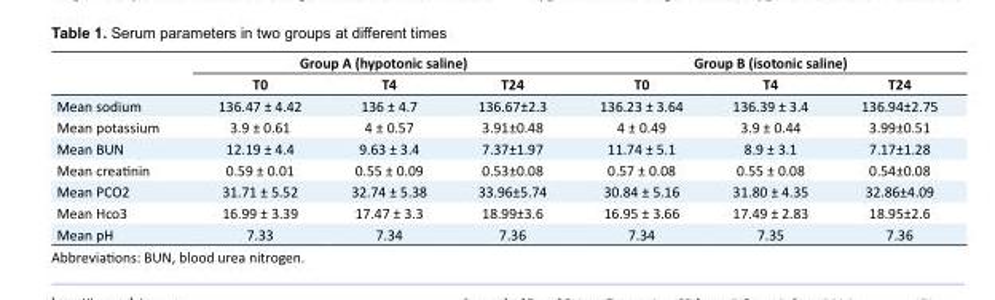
<table><thead><tr><td rowspan="2"></td><td colspan="3">Group A (hypotonic saline)</td><td colspan="3">Group B (isotonic saline)</td></tr><tr><td>T0</td><td>T4</td><td>T24</td><td>T0</td><td>T4</td><td>T24</td></tr></thead><tbody><tr><td>Mean sodium</td><td>136.47 ± 4.42</td><td>136 ± 4.7</td><td>136.67±2.3</td><td>136.23 ± 3.64</td><td>136.39 ± 3.4</td><td>136.94±2.75</td></tr><tr><td>Mean potassium</td><td>3.9 ± 0.61</td><td>4 ± 0.57</td><td>3.91±0.48</td><td>4 ± 0.49</td><td>3.9 ± 0.44</td><td>3.99±0.51</td></tr><tr><td>Mean BUN</td><td>12.19 ± 4.4</td><td>9.63 ± 3.4</td><td>7.37±1.97</td><td>11.74 ± 5.1</td><td>8.9 ± 3.1</td><td>7.17±1.28</td></tr><tr><td>Mean creatinin</td><td>0.59 ± 0.01</td><td>0.55 ± 0.09</td><td>0.53±0.08</td><td>0.57 ± 0.08</td><td>0.55 ± 0.08</td><td>0.54±0.08</td></tr><tr><td>Mean PCO2</td><td>31.71 ± 5.52</td><td>32.74 ± 5.38</td><td>33.96±5.74</td><td>30.84 ± 5.16</td><td>31.80 ± 4.35</td><td>32.86±4.09</td></tr><tr><td>Mean Hco3</td><td>16.99 ± 3.39</td><td>17.47 ± 3.3</td><td>18.99±3.6</td><td>16.95 ± 3.66</td><td>17.49 ± 2.83</td><td>18.95±2.6</td></tr><tr><td>Mean pH</td><td>7.33</td><td>7.34</td><td>7.36</td><td>7.34</td><td>7.35</td><td>7.36</td></tr></tbody></table>